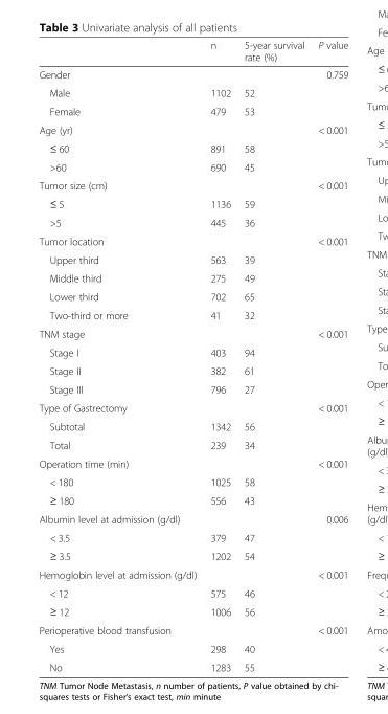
<table><thead><tr><td></td><td>n</td><td>5-year survival rate (%)</td><td>P value</td></tr></thead><tbody><tr><td>Gender</td><td></td><td></td><td>0.759</td></tr><tr><td>Male</td><td>1102</td><td>52</td><td></td></tr><tr><td>Female</td><td>479</td><td>53</td><td></td></tr><tr><td>Age (yr)</td><td></td><td></td><td>&lt; 0.001</td></tr><tr><td>≤ 60</td><td>891</td><td>58</td><td></td></tr><tr><td>&gt;60</td><td>690</td><td>45</td><td></td></tr><tr><td>Tumor size (cm)</td><td></td><td></td><td>&lt; 0.001</td></tr><tr><td>≤ 5</td><td>1136</td><td>59</td><td></td></tr><tr><td>&gt;5</td><td>445</td><td>36</td><td></td></tr><tr><td>Tumor location</td><td></td><td></td><td>&lt; 0.001</td></tr><tr><td>Upper third</td><td>563</td><td>39</td><td></td></tr><tr><td>Middle third</td><td>275</td><td>49</td><td></td></tr><tr><td>Lower third</td><td>702</td><td>65</td><td></td></tr><tr><td>Two-third or more</td><td>41</td><td>32</td><td></td></tr><tr><td>TNM stage</td><td></td><td></td><td>&lt; 0.001</td></tr><tr><td>Stage I</td><td>403</td><td>94</td><td></td></tr><tr><td>Stage II</td><td>382</td><td>61</td><td></td></tr><tr><td>Stage III</td><td>796</td><td>27</td><td></td></tr><tr><td>Type of Gastrectomy</td><td></td><td></td><td>&lt; 0.001</td></tr><tr><td>Subtotal</td><td>1342</td><td>56</td><td></td></tr><tr><td>Total</td><td>239</td><td>34</td><td></td></tr><tr><td>Operation time (min)</td><td></td><td></td><td>&lt; 0.001</td></tr><tr><td>&lt; 180</td><td>1025</td><td>58</td><td></td></tr><tr><td>≥ 180</td><td>556</td><td>43</td><td></td></tr><tr><td>Albumin level at admission (g/dl)</td><td></td><td></td><td>0.006</td></tr><tr><td>&lt; 3.5</td><td>379</td><td>47</td><td></td></tr><tr><td>≥ 3.5</td><td>1202</td><td>54</td><td></td></tr><tr><td>Hemoglobin level at admission (g/dl)</td><td></td><td></td><td>&lt; 0.001</td></tr><tr><td>&lt; 12</td><td>575</td><td>46</td><td></td></tr><tr><td>≥ 12</td><td>1006</td><td>56</td><td></td></tr><tr><td>Perioperative blood transfusion</td><td></td><td></td><td>&lt; 0.001</td></tr><tr><td>Yes</td><td>298</td><td>40</td><td></td></tr><tr><td>No</td><td>1283</td><td>55</td><td></td></tr></tbody></table>